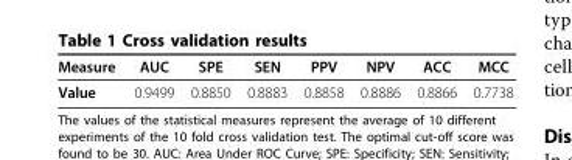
<table><thead><tr><td>Measure</td><td>AUC</td><td>SPE</td><td>SEN</td><td>PPV</td><td>NPV</td><td>ACC</td><td>MCC</td></tr></thead><tbody><tr><td>Value</td><td>0.9499</td><td>0.8850</td><td>0.8883</td><td>0.8858</td><td>0.8886</td><td>0.8866</td><td>0.7738</td></tr></tbody></table>